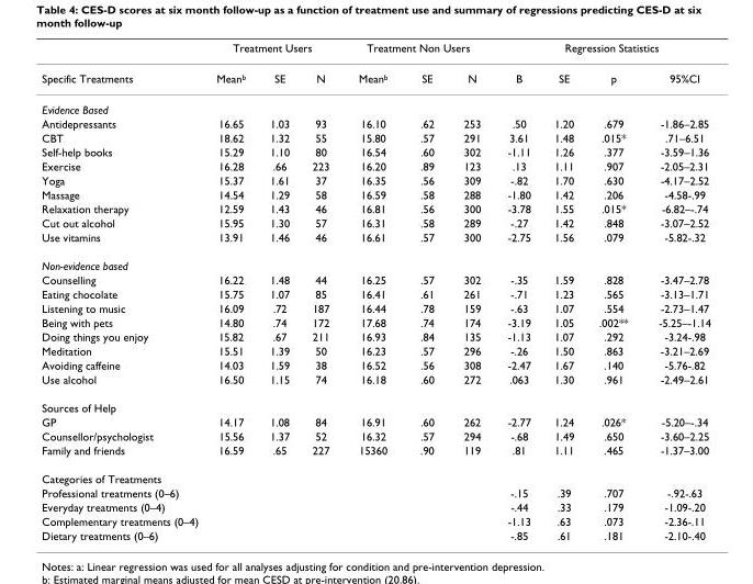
<table><thead><tr><td rowspan="2">Specific Treatments</td><td colspan="3">Treatment Users</td><td colspan="3">Treatment Non Users</td><td colspan="4">Regression Statistics</td></tr><tr><td>Mean<sup>b</sup></td><td>SE</td><td>N</td><td>Mean<sup>b</sup></td><td>SE</td><td>N</td><td>B</td><td>SE</td><td>p</td><td>95%CI</td></tr></thead><tbody><tr><td colspan="11">Evidence Based</td></tr><tr><td>Antidepressants</td><td>16.65</td><td>1.03</td><td>93</td><td>16.10</td><td>.62</td><td>253</td><td>.50</td><td>1.20</td><td>.679</td><td>-1.86–2.85</td></tr><tr><td>CBT</td><td>18.62</td><td>1.32</td><td>55</td><td>15.80</td><td>.57</td><td>291</td><td>3.61</td><td>1.48</td><td>.015*</td><td>.71–6.51</td></tr><tr><td>Self-help books</td><td>15.29</td><td>1.10</td><td>80</td><td>16.54</td><td>.60</td><td>302</td><td>-1.11</td><td>1.26</td><td>.377</td><td>-3.59–1.36</td></tr><tr><td>Exercise</td><td>16.28</td><td>.66</td><td>223</td><td>16.20</td><td>.89</td><td>123</td><td>.13</td><td>1.11</td><td>.907</td><td>-2.05–2.31</td></tr><tr><td>Yoga</td><td>15.37</td><td>1.61</td><td>37</td><td>16.35</td><td>.56</td><td>309</td><td>-.82</td><td>1.70</td><td>.630</td><td>-4.17–2.52</td></tr><tr><td>Massage</td><td>14.54</td><td>1.29</td><td>58</td><td>16.59</td><td>.58</td><td>288</td><td>-1.80</td><td>1.42</td><td>.206</td><td>-4.58-.99</td></tr><tr><td>Relaxation therapy</td><td>12.59</td><td>1.43</td><td>46</td><td>16.81</td><td>.56</td><td>300</td><td>-3.78</td><td>1.55</td><td>.015*</td><td>-6.82–-.74</td></tr><tr><td>Cut out alcohol</td><td>15.95</td><td>1.30</td><td>57</td><td>16.31</td><td>.58</td><td>289</td><td>-.27</td><td>1.42</td><td>.848</td><td>-3.07–2.52</td></tr><tr><td>Use vitamins</td><td>13.91</td><td>1.46</td><td>46</td><td>16.61</td><td>.57</td><td>300</td><td>-2.75</td><td>1.56</td><td>.079</td><td>-5.82-.32</td></tr><tr><td colspan="11">Non-evidence based</td></tr><tr><td>Counselling</td><td>16.22</td><td>1.48</td><td>44</td><td>16.25</td><td>.57</td><td>302</td><td>-.35</td><td>1.59</td><td>.828</td><td>-3.47–2.78</td></tr><tr><td>Eating chocolate</td><td>15.75</td><td>1.07</td><td>85</td><td>16.41</td><td>.61</td><td>261</td><td>-.71</td><td>1.23</td><td>.565</td><td>-3.13–1.71</td></tr><tr><td>Listening to music</td><td>16.09</td><td>.72</td><td>187</td><td>16.44</td><td>.78</td><td>159</td><td>-.63</td><td>1.07</td><td>.554</td><td>-2.73–1.47</td></tr><tr><td>Being with pets</td><td>14.80</td><td>.74</td><td>172</td><td>17.68</td><td>.74</td><td>174</td><td>-3.19</td><td>1.05</td><td>.002**</td><td>-5.25–-1.14</td></tr><tr><td>Doing things you enjoy</td><td>15.82</td><td>.67</td><td>211</td><td>16.93</td><td>.84</td><td>135</td><td>-1.13</td><td>1.07</td><td>.292</td><td>-3.24-.98</td></tr><tr><td>Meditation</td><td>15.51</td><td>1.39</td><td>50</td><td>16.23</td><td>.57</td><td>296</td><td>-.26</td><td>1.50</td><td>.863</td><td>-3.21–2.69</td></tr><tr><td>Avoiding caffeine</td><td>14.03</td><td>1.59</td><td>38</td><td>16.52</td><td>.56</td><td>308</td><td>-2.47</td><td>1.67</td><td>.140</td><td>-5.76-.82</td></tr><tr><td>Use alcohol</td><td>16.50</td><td>1.15</td><td>74</td><td>16.18</td><td>.60</td><td>272</td><td>.063</td><td>1.30</td><td>.961</td><td>-2.49–2.61</td></tr><tr><td colspan="11">Sources of Help</td></tr><tr><td>GP</td><td>14.17</td><td>1.08</td><td>84</td><td>16.91</td><td>.60</td><td>262</td><td>-2.77</td><td>1.24</td><td>.026*</td><td>-5.20–-.34</td></tr><tr><td>Counsellor/psychologist</td><td>15.56</td><td>1.37</td><td>52</td><td>16.32</td><td>.57</td><td>294</td><td>-.68</td><td>1.49</td><td>.650</td><td>-3.60–2.25</td></tr><tr><td>Family and friends</td><td>16.59</td><td>.65</td><td>227</td><td>15360</td><td>.90</td><td>119</td><td>.81</td><td>1.11</td><td>.465</td><td>-1.37–3.00</td></tr><tr><td colspan="11">Categories of Treatments</td></tr><tr><td>Professional treatments (0–6)</td><td></td><td></td><td></td><td></td><td></td><td></td><td>-.15</td><td>.39</td><td>.707</td><td>-.92-.63</td></tr><tr><td>Everyday treatments (0–4)</td><td></td><td></td><td></td><td></td><td></td><td></td><td>-.44</td><td>.33</td><td>.179</td><td>-1.09-.20</td></tr><tr><td>Complementary treatments (0–4)</td><td></td><td></td><td></td><td></td><td></td><td></td><td>-1.13</td><td>.63</td><td>.073</td><td>-2.36-.11</td></tr><tr><td>Dietary treatments (0–6)</td><td></td><td></td><td></td><td></td><td></td><td></td><td>-.85</td><td>.61</td><td>.181</td><td>-2.10-.40</td></tr></tbody></table>